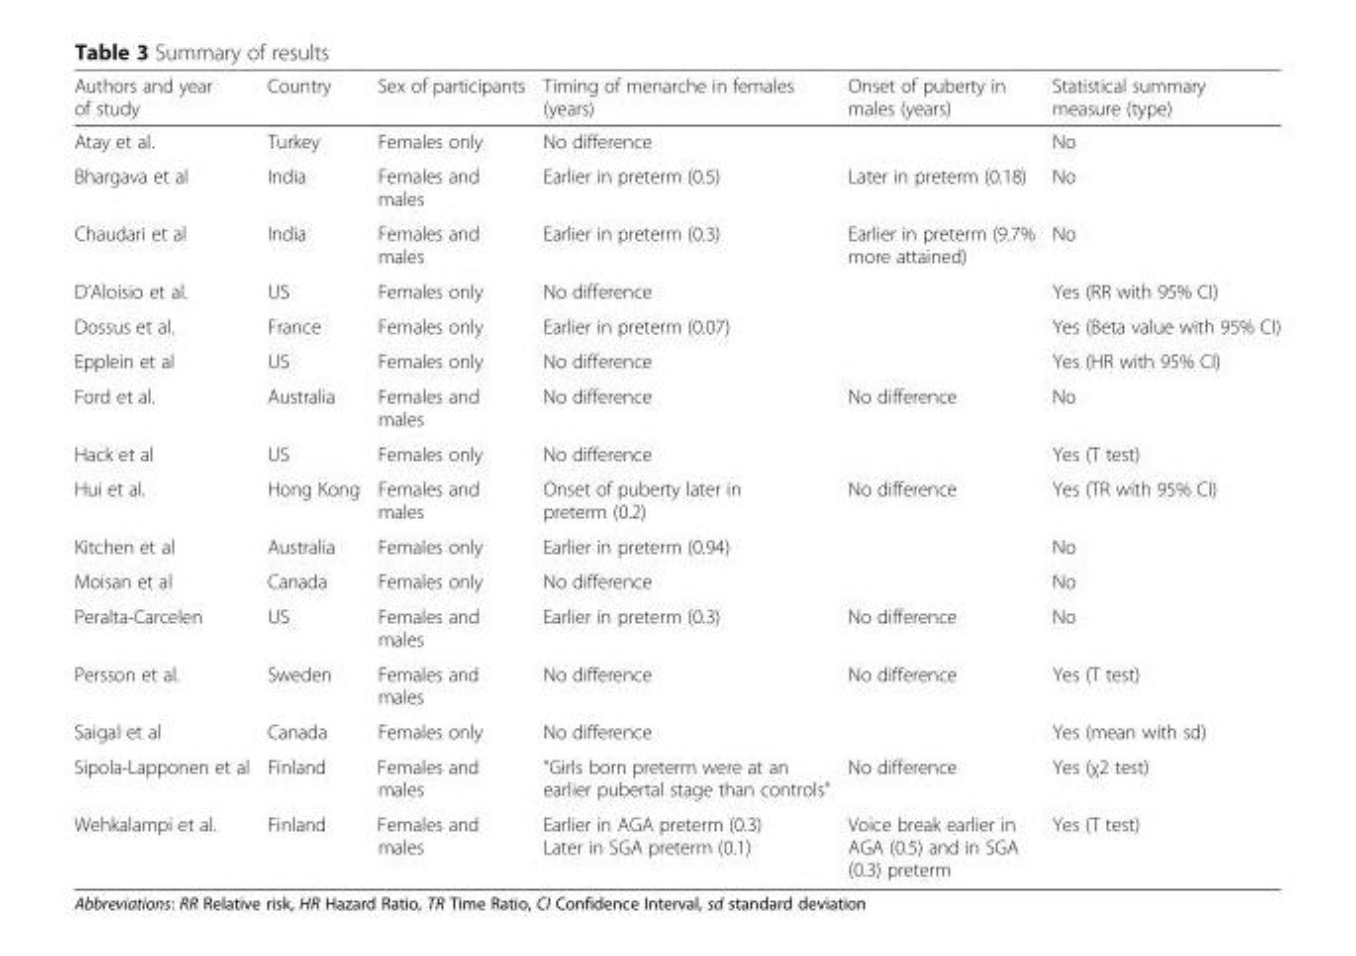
<table><thead><tr><td>Authors and year of study</td><td>Country</td><td>Sex of participants</td><td>Timing of menarche in females (years)</td><td>Onset of puberty in males (years)</td><td>Statistical summary measure (type)</td></tr></thead><tbody><tr><td>Atay et al.</td><td>Turkey</td><td>Females only</td><td>No difference</td><td></td><td>No</td></tr><tr><td>Bhargava et al</td><td>India</td><td>Females and males</td><td>Earlier in preterm (0.5)</td><td>Later in preterm (0.18)</td><td>No</td></tr><tr><td>Chaudari et al</td><td>India</td><td>Females and males</td><td>Earlier in preterm (0.3)</td><td>Earlier in preterm (9.7% more attained)</td><td>No</td></tr><tr><td>D’Aloisio et al.</td><td>US</td><td>Females only</td><td>No difference</td><td></td><td>Yes (RR with 95% CI)</td></tr><tr><td>Dossus et al.</td><td>France</td><td>Females only</td><td>Earlier in preterm (0.07)</td><td></td><td>Yes (Beta value with 95% CI)</td></tr><tr><td>Epplein et al</td><td>US</td><td>Females only</td><td>No difference</td><td></td><td>Yes (HR with 95% CI)</td></tr><tr><td>Ford et al.</td><td>Australia</td><td>Females and males</td><td>No difference</td><td>No difference</td><td>No</td></tr><tr><td>Hack et al</td><td>US</td><td>Females only</td><td>No difference</td><td></td><td>Yes (T test)</td></tr><tr><td>Hui et al.</td><td>Hong Kong</td><td>Females and males</td><td>Onset of puberty later in preterm (0.2)</td><td>No difference</td><td>Yes (TR with 95% CI)</td></tr><tr><td>Kitchen et al</td><td>Australia</td><td>Females only</td><td>Earlier in preterm (0.94)</td><td></td><td>No</td></tr><tr><td>Moisan et al</td><td>Canada</td><td>Females only</td><td>No difference</td><td></td><td>No</td></tr><tr><td>Peralta-Carcelen</td><td>US</td><td>Females and males</td><td>Earlier in preterm (0.3)</td><td>No difference</td><td>No</td></tr><tr><td>Persson et al.</td><td>Sweden</td><td>Females and males</td><td>No difference</td><td>No difference</td><td>Yes (T test)</td></tr><tr><td>Saigal et al</td><td>Canada</td><td>Females only</td><td>No difference</td><td></td><td>Yes (mean with sd)</td></tr><tr><td>Sipola-Lapponen et al</td><td>Finland</td><td>Females and males</td><td>“Girls born preterm were at an earlier pubertal stage than controls”</td><td>No difference</td><td>Yes (χ2 test)</td></tr><tr><td>Wehkalampi et al.</td><td>Finland</td><td>Females and males</td><td>Earlier in AGA preterm (0.3) Later in SGA preterm (0.1)</td><td>Voice break earlier in AGA (0.5) and in SGA (0.3) preterm</td><td>Yes (T test)</td></tr></tbody></table>